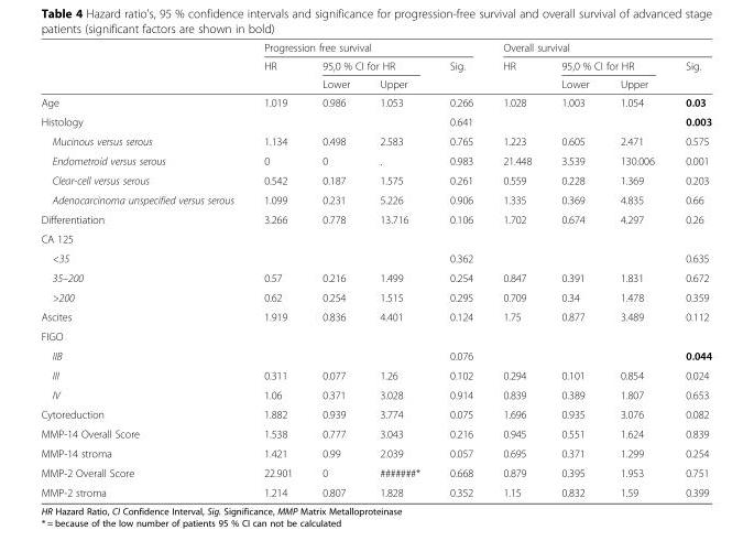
<table><thead><tr><td rowspan="3"></td><td colspan="4">Progression free survival</td><td colspan="4">Overall survival</td></tr><tr><td rowspan="2">HR</td><td colspan="2">95,0 % CI for HR</td><td rowspan="2">Sig.</td><td rowspan="2">HR</td><td colspan="2">95,0 % CI for HR</td><td rowspan="2">Sig.</td></tr><tr><td>Lower</td><td>Upper</td><td>Lower</td><td>Upper</td></tr></thead><tbody><tr><td>Age</td><td>1.019</td><td>0.986</td><td>1.053</td><td>0.266</td><td>1.028</td><td>1.003</td><td>1.054</td><td>0.03</td></tr><tr><td>Histology</td><td></td><td></td><td></td><td>0.641</td><td></td><td></td><td></td><td>0.003</td></tr><tr><td>Mucinous versus serous</td><td>1.134</td><td>0.498</td><td>2.583</td><td>0.765</td><td>1.223</td><td>0.605</td><td>2.471</td><td>0.575</td></tr><tr><td>Endometroid versus serous</td><td>0</td><td>0</td><td>.</td><td>0.983</td><td>21.448</td><td>3.539</td><td>130.006</td><td>0.001</td></tr><tr><td>Clear-cell versus serous</td><td>0.542</td><td>0.187</td><td>1.575</td><td>0.261</td><td>0.559</td><td>0.228</td><td>1.369</td><td>0.203</td></tr><tr><td>Adenocarcinoma unspecified versus serous</td><td>1.099</td><td>0.231</td><td>5.226</td><td>0.906</td><td>1.335</td><td>0.369</td><td>4.835</td><td>0.66</td></tr><tr><td>Differentiation</td><td>3.266</td><td>0.778</td><td>13.716</td><td>0.106</td><td>1.702</td><td>0.674</td><td>4.297</td><td>0.26</td></tr><tr><td colspan="9">CA 125</td></tr><tr><td>&lt;35</td><td></td><td></td><td></td><td>0.362</td><td></td><td></td><td></td><td>0.635</td></tr><tr><td>35–200</td><td>0.57</td><td>0.216</td><td>1.499</td><td>0.254</td><td>0.847</td><td>0.391</td><td>1.831</td><td>0.672</td></tr><tr><td>&gt;200</td><td>0.62</td><td>0.254</td><td>1.515</td><td>0.295</td><td>0.709</td><td>0.34</td><td>1.478</td><td>0.359</td></tr><tr><td>Ascites</td><td>1.919</td><td>0.836</td><td>4.401</td><td>0.124</td><td>1.75</td><td>0.877</td><td>3.489</td><td>0.112</td></tr><tr><td colspan="9">FIGO</td></tr><tr><td>IIB</td><td></td><td></td><td></td><td>0.076</td><td></td><td></td><td></td><td>0.044</td></tr><tr><td>III</td><td>0.311</td><td>0.077</td><td>1.26</td><td>0.102</td><td>0.294</td><td>0.101</td><td>0.854</td><td>0.024</td></tr><tr><td>IV</td><td>1.06</td><td>0.371</td><td>3.028</td><td>0.914</td><td>0.839</td><td>0.389</td><td>1.807</td><td>0.653</td></tr><tr><td>Cytoreduction</td><td>1.882</td><td>0.939</td><td>3.774</td><td>0.075</td><td>1.696</td><td>0.935</td><td>3.076</td><td>0.082</td></tr><tr><td>MMP-14 Overall Score</td><td>1.538</td><td>0.777</td><td>3.043</td><td>0.216</td><td>0.945</td><td>0.551</td><td>1.624</td><td>0.839</td></tr><tr><td>MMP-14 stroma</td><td>1.421</td><td>0.99</td><td>2.039</td><td>0.057</td><td>0.695</td><td>0.371</td><td>1.299</td><td>0.254</td></tr><tr><td>MMP-2 Overall Score</td><td>22.901</td><td>0</td><td>#######*</td><td>0.668</td><td>0.879</td><td>0.395</td><td>1.953</td><td>0.751</td></tr><tr><td>MMP-2 stroma</td><td>1.214</td><td>0.807</td><td>1.828</td><td>0.352</td><td>1.15</td><td>0.832</td><td>1.59</td><td>0.399</td></tr></tbody></table>